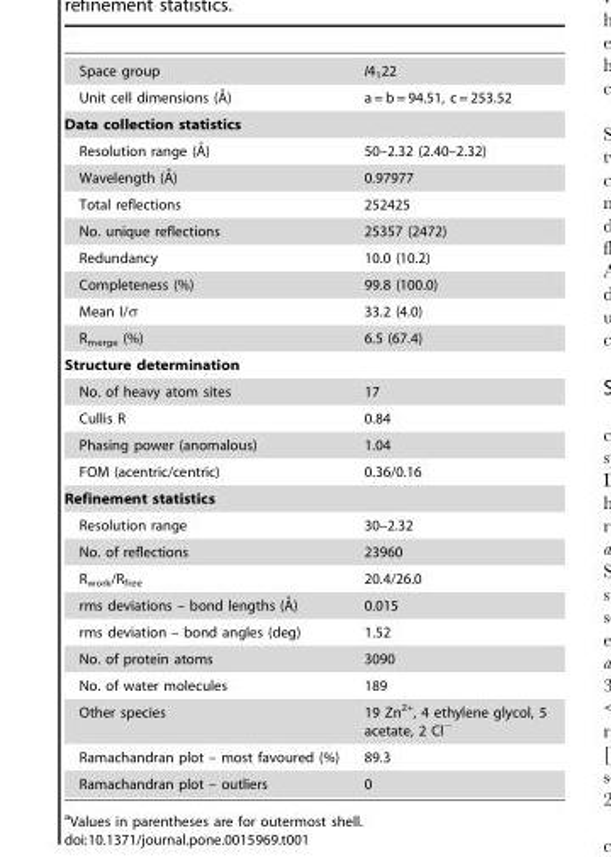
<table><tbody><tr><td>Space group</td><td>I4<sub>1</sub>22</td></tr><tr><td>Unit cell dimensions (A˚)</td><td>a = b = 94.51, c = 253.52</td></tr><tr><td colspan="2">Data collection statistics</td></tr><tr><td>Resolution range (A˚)</td><td>50–2.32 (2.40–2.32)</td></tr><tr><td>Wavelength (A˚)</td><td>0.97977</td></tr><tr><td>Total reflections</td><td>252425</td></tr><tr><td>No. unique reflections</td><td>25357 (2472)</td></tr><tr><td>Redundancy</td><td>10.0 (10.2)</td></tr><tr><td>Completeness (%)</td><td>99.8 (100.0)</td></tr><tr><td>Mean I/σ</td><td>33.2 (4.0)</td></tr><tr><td>R<sub>merge</sub> (%)</td><td>6.5 (67.4)</td></tr><tr><td colspan="2">Structure determination</td></tr><tr><td>No. of heavy atom sites</td><td>17</td></tr><tr><td>Cullis R</td><td>0.84</td></tr><tr><td>Phasing power (anomalous)</td><td>1.04</td></tr><tr><td>FOM (acentric/centric)</td><td>0.36/0.16</td></tr><tr><td colspan="2">Refinement statistics</td></tr><tr><td>Resolution range</td><td>30–2.32</td></tr><tr><td>No. of reflections</td><td>23960</td></tr><tr><td>R<sub>work</sub>/R<sub>free</sub></td><td>20.4/26.0</td></tr><tr><td>rms deviations – bond lengths (A˚)</td><td>0.015</td></tr><tr><td>rms deviation – bond angles (deg)</td><td>1.52</td></tr><tr><td>No. of protein atoms</td><td>3090</td></tr><tr><td>No. of water molecules</td><td>189</td></tr><tr><td>Other species</td><td>19 Zn<sup>2+</sup>, 4 ethylene glycol, 5 acetate, 2 Cl<sup>−</sup></td></tr><tr><td>Ramachandran plot – most favoured (%)</td><td>89.3</td></tr><tr><td>Ramachandran plot – outliers</td><td>0</td></tr></tbody></table>